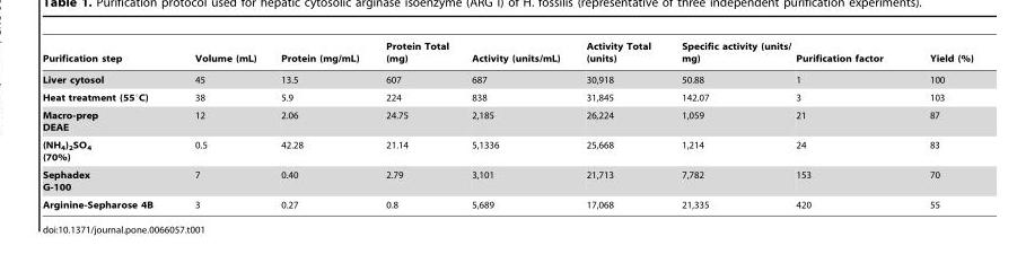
<table><thead><tr><td>Purification step</td><td>Volume (mL)</td><td>Protein (mg/mL)</td><td>Protein Total (mg)</td><td>Activity (units/mL)</td><td>Activity Total (units)</td><td>Specific activity (units/ mg)</td><td>Purification factor</td><td>Yield (%)</td></tr></thead><tbody><tr><td>Liver cytosol</td><td>45</td><td>13.5</td><td>607</td><td>687</td><td>30,918</td><td>50.88</td><td>1</td><td>100</td></tr><tr><td>Heat treatment (55°C)</td><td>38</td><td>5.9</td><td>224</td><td>838</td><td>31,845</td><td>142.07</td><td>3</td><td>103</td></tr><tr><td>Macro-prep DEAE</td><td>12</td><td>2.06</td><td>24.75</td><td>2,185</td><td>26,224</td><td>1,059</td><td>21</td><td>87</td></tr><tr><td>(NH<sub>4</sub>)<sub>2</sub>SO<sub>4</sub> (70%)</td><td>0.5</td><td>42.28</td><td>21.14</td><td>5,1336</td><td>25,668</td><td>1,214</td><td>24</td><td>83</td></tr><tr><td>Sephadex G-100</td><td>7</td><td>0.40</td><td>2.79</td><td>3,101</td><td>21,713</td><td>7,782</td><td>153</td><td>70</td></tr><tr><td>Arginine-Sepharose 4B</td><td>3</td><td>0.27</td><td>0.8</td><td>5,689</td><td>17,068</td><td>21,335</td><td>420</td><td>55</td></tr></tbody></table>